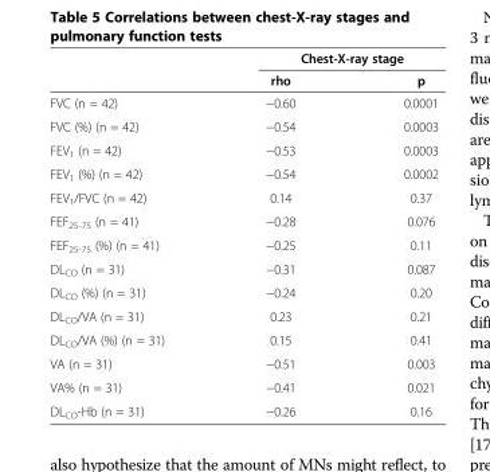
<table><thead><tr><td rowspan="2"></td><td colspan="2">Chest-X-ray stage</td></tr><tr><td>rho</td><td>p</td></tr></thead><tbody><tr><td>FVC (n = 42)</td><td>−0.60</td><td>0.0001</td></tr><tr><td>FVC (%) (n = 42)</td><td>−0.54</td><td>0.0003</td></tr><tr><td>FEV<sub>1</sub> (n = 42)</td><td>−0.53</td><td>0.0003</td></tr><tr><td>FEV<sub>1</sub> (%) (n = 42)</td><td>−0.54</td><td>0.0002</td></tr><tr><td>FEV<sub>1</sub>/FVC (n = 42)</td><td>0.14</td><td>0.37</td></tr><tr><td>FEF<sub>25-75</sub> (n = 41)</td><td>−0.28</td><td>0.076</td></tr><tr><td>FEF<sub>25-75</sub> (%) (n = 41)</td><td>−0.25</td><td>0.11</td></tr><tr><td>DL<sub>CO</sub> (n = 31)</td><td>−0.31</td><td>0.087</td></tr><tr><td>DL<sub>CO</sub> (%) (n = 31)</td><td>−0.24</td><td>0.20</td></tr><tr><td>DL<sub>CO</sub>/VA (n = 31)</td><td>0.23</td><td>0.21</td></tr><tr><td>DL<sub>CO</sub>/VA (%) (n = 31)</td><td>0.15</td><td>0.41</td></tr><tr><td>VA (n = 31)</td><td>−0.51</td><td>0.003</td></tr><tr><td>VA% (n = 31)</td><td>−0.41</td><td>0.021</td></tr><tr><td>DL<sub>CO</sub>-Hb (n = 31)</td><td>−0.26</td><td>0.16</td></tr></tbody></table>